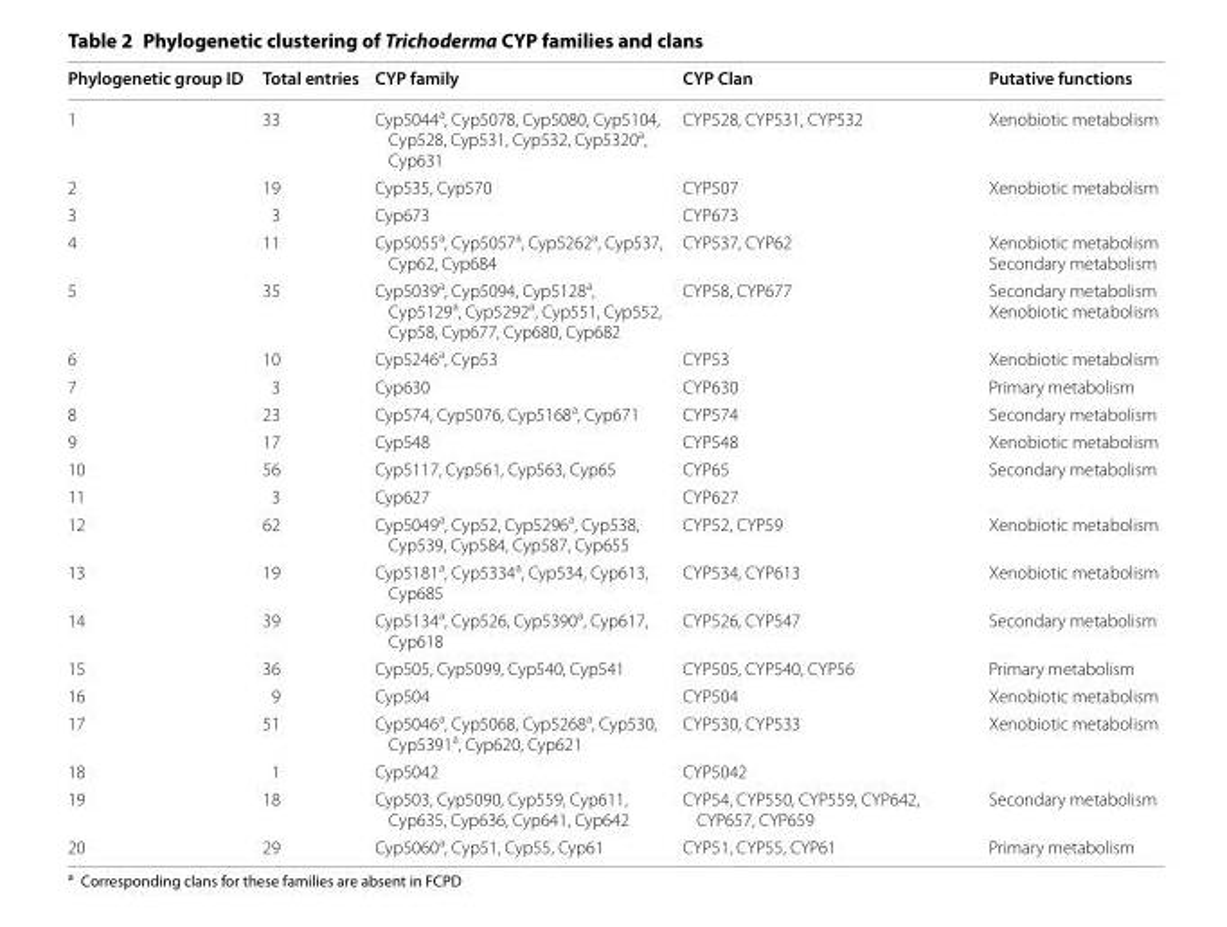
<table><thead><tr><td>Phylogenetic group ID</td><td>Total entries</td><td>CYP family</td><td>CYP Clan</td><td>Putative functions</td></tr></thead><tbody><tr><td>1</td><td>33</td><td>Cyp5044<sup>a</sup>, Cyp5078, Cyp5080, Cyp5104, Cyp528, Cyp531, Cyp532, Cyp5320<sup>a</sup>, Cyp631</td><td>CYP528, CYP531, CYP532</td><td>Xenobiotic metabolism</td></tr><tr><td>2</td><td>19</td><td>Cyp535, Cyp570</td><td>CYP507</td><td>Xenobiotic metabolism</td></tr><tr><td>3</td><td>3</td><td>Cyp673</td><td>CYP673</td><td></td></tr><tr><td>4</td><td>11</td><td>Cyp5055<sup>a</sup>, Cyp5057<sup>a</sup>, Cyp5262<sup>a</sup>, Cyp537, Cyp62, Cyp684</td><td>CYP537, CYP62</td><td>Xenobiotic metabolism Secondary metabolism</td></tr><tr><td>5</td><td>35</td><td>Cyp5039<sup>a</sup>, Cyp5094, Cyp5128<sup>a</sup>, Cyp5129<sup>a</sup>, Cyp5292<sup>a</sup>, Cyp551, Cyp552, Cyp58, Cyp677, Cyp680, Cyp682</td><td>CYP58, CYP677</td><td>Secondary metabolism Xenobiotic metabolism</td></tr><tr><td>6</td><td>10</td><td>Cyp5246<sup>a</sup>, Cyp53</td><td>CYP53</td><td>Xenobiotic metabolism</td></tr><tr><td>7</td><td>3</td><td>Cyp630</td><td>CYP630</td><td>Primary metabolism</td></tr><tr><td>8</td><td>23</td><td>Cyp574, Cyp5076, Cyp5168<sup>a</sup>, Cyp671</td><td>CYP574</td><td>Secondary metabolism</td></tr><tr><td>9</td><td>17</td><td>Cyp548</td><td>CYP548</td><td>Xenobiotic metabolism</td></tr><tr><td>10</td><td>56</td><td>Cyp5117, Cyp561, Cyp563, Cyp65</td><td>CYP65</td><td>Secondary metabolism</td></tr><tr><td>11</td><td>3</td><td>Cyp627</td><td>CYP627</td><td></td></tr><tr><td>12</td><td>62</td><td>Cyp5049<sup>a</sup>, Cyp52, Cyp5296<sup>a</sup>, Cyp538, Cyp539, Cyp584, Cyp587, Cyp655</td><td>CYP52, CYP59</td><td>Xenobiotic metabolism</td></tr><tr><td>13</td><td>19</td><td>Cyp5181<sup>a</sup>, Cyp5334<sup>a</sup>, Cyp534, Cyp613, Cyp685</td><td>CYP534, CYP613</td><td>Xenobiotic metabolism</td></tr><tr><td>14</td><td>39</td><td>Cyp5134<sup>a</sup>, Cyp526, Cyp5390<sup>a</sup>, Cyp617, Cyp618</td><td>CYP526, CYP547</td><td>Secondary metabolism</td></tr><tr><td>15</td><td>36</td><td>Cyp505, Cyp5099, Cyp540, Cyp541</td><td>CYP505, CYP540, CYP56</td><td>Primary metabolism</td></tr><tr><td>16</td><td>9</td><td>Cyp504</td><td>CYP504</td><td>Xenobiotic metabolism</td></tr><tr><td>17</td><td>51</td><td>Cyp5046<sup>a</sup>, Cyp5068, Cyp5268<sup>a</sup>, Cyp530, Cyp5391<sup>a</sup>, Cyp620, Cyp621</td><td>CYP530, CYP533</td><td>Xenobiotic metabolism</td></tr><tr><td>18</td><td>1</td><td>Cyp5042</td><td>CYP5042</td><td></td></tr><tr><td>19</td><td>18</td><td>Cyp503, Cyp5090, Cyp559, Cyp611, Cyp635, Cyp636, Cyp641, Cyp642</td><td>CYP54, CYP550, CYP559, CYP642, CYP657, CYP659</td><td>Secondary metabolism</td></tr><tr><td>20</td><td>29</td><td>Cyp5060<sup>a</sup>, Cyp51, Cyp55, Cyp61</td><td>CYP51, CYP55, CYP61</td><td>Primary metabolism</td></tr></tbody></table>